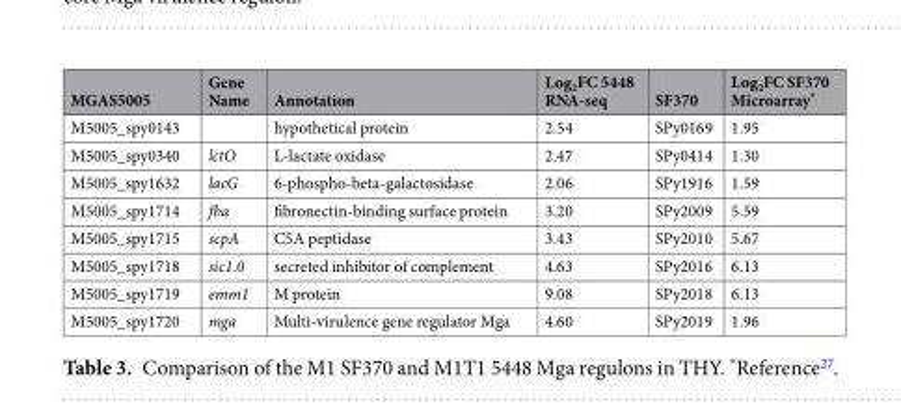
<table><thead><tr><td>MGAS5005</td><td>Gene Name</td><td>Annotation</td><td>Log<sub>2</sub>FC 5448 RNA-seq</td><td>SF370</td><td>Log<sub>2</sub>FC SF370 Microarray*</td></tr></thead><tbody><tr><td>M5005_spy0143</td><td></td><td>hypothetical protein</td><td>2.54</td><td>SPy0169</td><td>1.95</td></tr><tr><td>M5005_spy0340</td><td>lctO</td><td>L-lactate oxidase</td><td>2.47</td><td>SPy0414</td><td>1.30</td></tr><tr><td>M5005_spy1632</td><td>lacG</td><td>6-phospho-beta-galactosidase</td><td>2.06</td><td>SPy1916</td><td>1.59</td></tr><tr><td>M5005_spy1714</td><td>fba</td><td>fibronectin-binding surface protein</td><td>3.20</td><td>SPy2009</td><td>5.59</td></tr><tr><td>M5005_spy1715</td><td>scpA</td><td>C5A peptidase</td><td>3.43</td><td>SPy2010</td><td>5.67</td></tr><tr><td>M5005_spy1718</td><td>sic1.0</td><td>secreted inhibitor of complement</td><td>4.63</td><td>SPy2016</td><td>6.13</td></tr><tr><td>M5005_spy1719</td><td>emm1</td><td>M protein</td><td>9.08</td><td>SPy2018</td><td>6.13</td></tr><tr><td>M5005_spy1720</td><td>mga</td><td>Multi-virulence gene regulator Mga</td><td>4.60</td><td>SPy2019</td><td>1.96</td></tr></tbody></table>